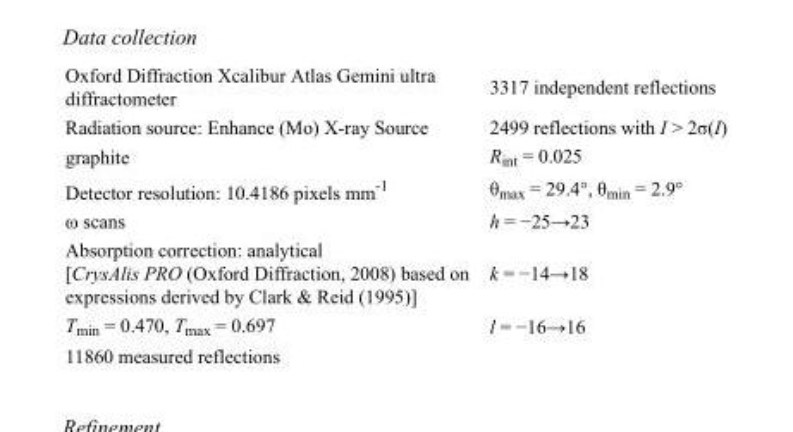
<table><tbody><tr><td>Oxford Diffraction Xcalibur Atlas Gemini ultra diffractometer</td><td>3317 independent reflections</td></tr><tr><td>Radiation source: Enhance (Mo) X-ray Source</td><td>2499 reflections with I &gt; 2σ(I)</td></tr><tr><td>graphite</td><td>R<sub>int</sub> = 0.025</td></tr><tr><td>Detector resolution: 10.4186 pixels mm<sup>-1</sup></td><td>θ<sub>max</sub> = 29.4°, θ<sub>min</sub> = 2.9°</td></tr><tr><td>ω scans</td><td>h = −25→23</td></tr><tr><td>Absorption correction: analytical [CrysAlis PRO (Oxford Diffraction, 2008) based on expressions derived by Clark &amp; Reid (1995)]</td><td>k = −14→18</td></tr><tr><td>T<sub>min</sub> = 0.470, T<sub>max</sub> = 0.697</td><td>l = −16→16</td></tr><tr><td>11860 measured reflections</td><td></td></tr></tbody></table>